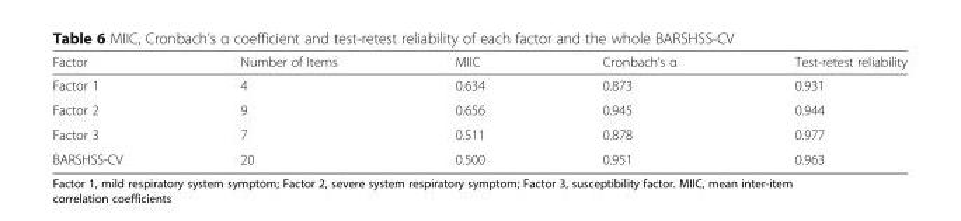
<table><thead><tr><td>Factor</td><td>Number of Items</td><td>MIIC</td><td>Cronbach’s α</td><td>Test-retest reliability</td></tr></thead><tbody><tr><td>Factor 1</td><td>4</td><td>0.634</td><td>0.873</td><td>0.931</td></tr><tr><td>Factor 2</td><td>9</td><td>0.656</td><td>0.945</td><td>0.944</td></tr><tr><td>Factor 3</td><td>7</td><td>0.511</td><td>0.878</td><td>0.977</td></tr><tr><td>BARSHSS-CV</td><td>20</td><td>0.500</td><td>0.951</td><td>0.963</td></tr></tbody></table>